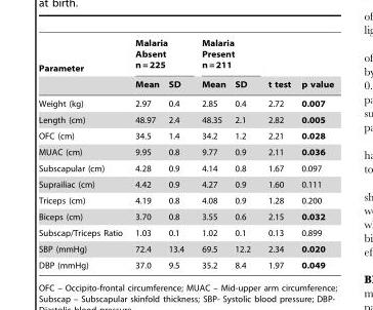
<table><thead><tr><td rowspan="2">Parameter</td><td colspan="2">Malaria Absent n = 225</td><td colspan="2">Malaria Present n = 211</td><td rowspan="2">t test</td><td rowspan="2">p value</td></tr><tr><td>Mean</td><td>SD</td><td>Mean</td><td>SD</td></tr></thead><tbody><tr><td>Weight (kg)</td><td>2.97</td><td>0.4</td><td>2.85</td><td>0.4</td><td>2.72</td><td>0.007</td></tr><tr><td>Length (cm)</td><td>48.97</td><td>2.4</td><td>48.35</td><td>2.1</td><td>2.82</td><td>0.005</td></tr><tr><td>OFC (cm)</td><td>34.5</td><td>1.4</td><td>34.2</td><td>1.2</td><td>2.21</td><td>0.028</td></tr><tr><td>MUAC (cm)</td><td>9.95</td><td>0.8</td><td>9.77</td><td>0.9</td><td>2.11</td><td>0.036</td></tr><tr><td>Subscapular (cm)</td><td>4.28</td><td>0.9</td><td>4.14</td><td>0.8</td><td>1.67</td><td>0.097</td></tr><tr><td>Suprailiac (cm)</td><td>4.42</td><td>0.9</td><td>4.27</td><td>0.9</td><td>1.60</td><td>0.111</td></tr><tr><td>Triceps (cm)</td><td>4.19</td><td>0.8</td><td>4.08</td><td>0.9</td><td>1.28</td><td>0.200</td></tr><tr><td>Biceps (cm)</td><td>3.70</td><td>0.8</td><td>3.55</td><td>0.6</td><td>2.15</td><td>0.032</td></tr><tr><td>Subscap/Triceps Ratio</td><td>1.03</td><td>0.1</td><td>1.02</td><td>0.1</td><td>0.13</td><td>0.899</td></tr><tr><td>SBP (mmHg)</td><td>72.4</td><td>13.4</td><td>69.5</td><td>12.2</td><td>2.34</td><td>0.020</td></tr><tr><td>DBP (mmHg)</td><td>37.0</td><td>9.5</td><td>35.2</td><td>8.4</td><td>1.97</td><td>0.049</td></tr></tbody></table>